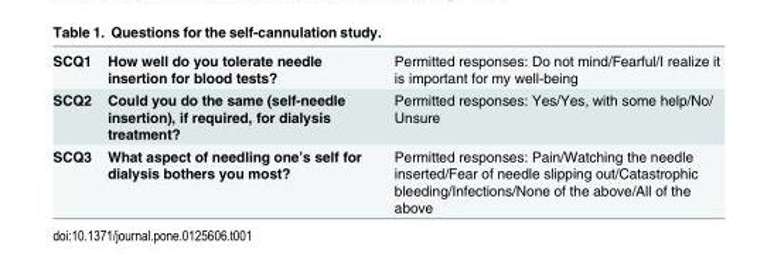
<table><tbody><tr><td>SCQ1</td><td>How well do you tolerate needle insertion for blood tests?</td><td>Permitted responses: Do not mind/Fearful/I realize it is important for my well-being</td></tr><tr><td>SCQ2</td><td>Could you do the same (self-needle insertion), if required, for dialysis treatment?</td><td>Permitted responses: Yes/Yes, with some help/No/ Unsure</td></tr><tr><td>SCQ3</td><td>What aspect of needling one’s self for dialysis bothers you most?</td><td>Permitted responses: Pain/Watching the needle inserted/Fear of needle slipping out/Catastrophic bleeding/Infections/None of the above/All of the above</td></tr></tbody></table>